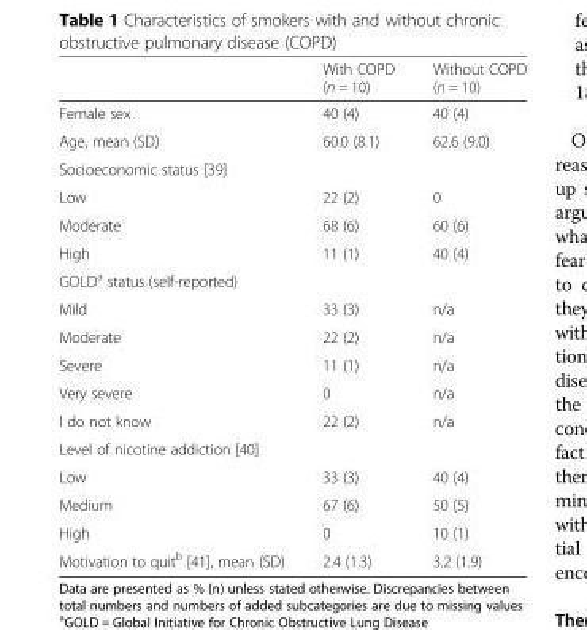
<table><thead><tr><td></td><td>With COPD (n = 10)</td><td>Without COPD (n = 10)</td></tr></thead><tbody><tr><td>Female sex</td><td>40 (4)</td><td>40 (4)</td></tr><tr><td>Age, mean (SD)</td><td>60.0 (8.1)</td><td>62.6 (9.0)</td></tr><tr><td colspan="3">Socioeconomic status [39]</td></tr><tr><td>Low</td><td>22 (2)</td><td>0</td></tr><tr><td>Moderate</td><td>68 (6)</td><td>60 (6)</td></tr><tr><td>High</td><td>11 (1)</td><td>40 (4)</td></tr><tr><td colspan="3">GOLD<sup>a</sup> status (self-reported)</td></tr><tr><td>Mild</td><td>33 (3)</td><td>n/a</td></tr><tr><td>Moderate</td><td>22 (2)</td><td>n/a</td></tr><tr><td>Severe</td><td>11 (1)</td><td>n/a</td></tr><tr><td>Very severe</td><td>0</td><td>n/a</td></tr><tr><td>I do not know</td><td>22 (2)</td><td>n/a</td></tr><tr><td colspan="3">Level of nicotine addiction [40]</td></tr><tr><td>Low</td><td>33 (3)</td><td>40 (4)</td></tr><tr><td>Medium</td><td>67 (6)</td><td>50 (5)</td></tr><tr><td>High</td><td>0</td><td>10 (1)</td></tr><tr><td>Motivation to quit<sup>b</sup> [41], mean (SD)</td><td>2.4 (1.3)</td><td>3.2 (1.9)</td></tr></tbody></table>